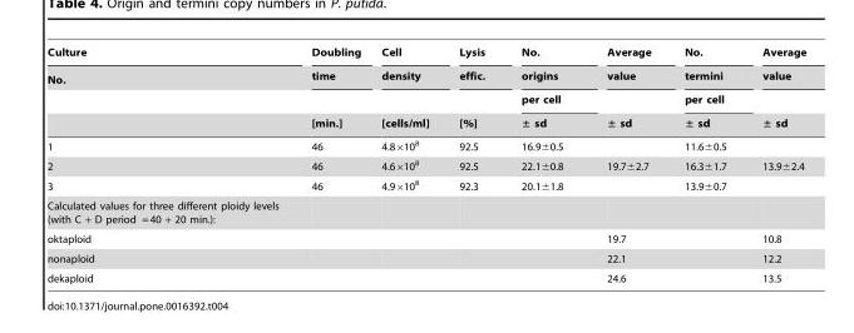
<table><thead><tr><td rowspan="4">Culture No.</td><td rowspan="4">Doubling time [min.]</td><td rowspan="4">Cell density [cells/ml]</td><td rowspan="4">Lysis effic. [%]</td><td rowspan="4">No. origins per cell ± sd</td><td rowspan="4">Average value ± sd</td><td rowspan="4">No. termini per cell ± sd</td><td rowspan="4">Average value ± sd</td></tr><tr></tr><tr></tr><tr></tr></thead><tbody><tr><td>1</td><td>46</td><td>4.8×10<sup>8</sup></td><td>92.5</td><td>16.9±0.5</td><td></td><td>11.6±0.5</td><td></td></tr><tr><td>2</td><td>46</td><td>4.6×10<sup>8</sup></td><td>92.5</td><td>22.1±0.8</td><td>19.7±2.7</td><td>16.3±1.7</td><td>13.9±2.4</td></tr><tr><td>3</td><td>46</td><td>4.9×10<sup>8</sup></td><td>92.3</td><td>20.1±1.8</td><td></td><td>13.9±0.7</td><td></td></tr><tr><td colspan="8">Calculated values for three different ploidy levels (with C + D period = 40 + 20 min.):</td></tr><tr><td>oktaploid</td><td></td><td></td><td></td><td></td><td>19.7</td><td></td><td>10.8</td></tr><tr><td>nonaploid</td><td></td><td></td><td></td><td></td><td>22.1</td><td></td><td>12.2</td></tr><tr><td>dekaploid</td><td></td><td></td><td></td><td></td><td>24.6</td><td></td><td>13.5</td></tr></tbody></table>